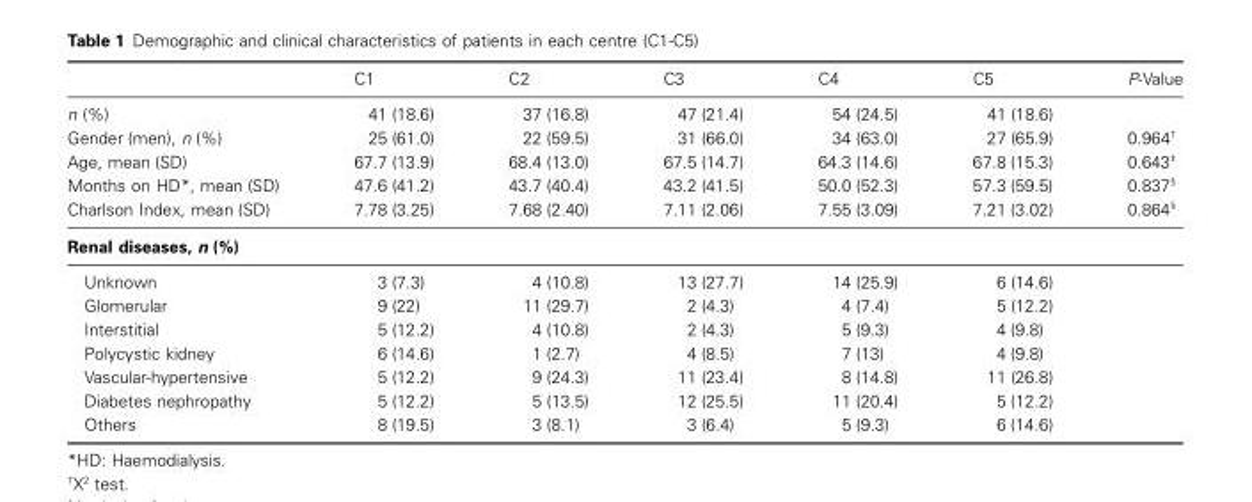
<table><thead><tr><td></td><td>C1</td><td>C2</td><td>C3</td><td>C4</td><td>C5</td><td>P-Value</td></tr></thead><tbody><tr><td>n (%)</td><td>41 (18.6)</td><td>37 (16.8)</td><td>47 (21.4)</td><td>54 (24.5)</td><td>41 (18.6)</td><td></td></tr><tr><td>Gender (men), n (%)</td><td>25 (61.0)</td><td>22 (59.5)</td><td>31 (66.0)</td><td>34 (63.0)</td><td>27 (65.9)</td><td>0.964†</td></tr><tr><td>Age, mean (SD)</td><td>67.7 (13.9)</td><td>68.4 (13.0)</td><td>67.5 (14.7)</td><td>64.3 (14.6)</td><td>67.8 (15.3)</td><td>0.643‡</td></tr><tr><td>Months on HD*, mean (SD)</td><td>47.6 (41.2)</td><td>43.7 (40.4)</td><td>43.2 (41.5)</td><td>50.0 (52.3)</td><td>57.3 (59.5)</td><td>0.837§</td></tr><tr><td>Charlson Index, mean (SD)</td><td>7.78 (3.25)</td><td>7.68 (2.40)</td><td>7.11 (2.06)</td><td>7.55 (3.09)</td><td>7.21 (3.02)</td><td>0.864§</td></tr><tr><td colspan="7">Renal diseases, n (%)</td></tr><tr><td>Unknown</td><td>3 (7.3)</td><td>4 (10.8)</td><td>13 (27.7)</td><td>14 (25.9)</td><td>6 (14.6)</td><td></td></tr><tr><td>Glomerular</td><td>9 (22)</td><td>11 (29.7)</td><td>2 (4.3)</td><td>4 (7.4)</td><td>5 (12.2)</td><td></td></tr><tr><td>Interstitial</td><td>5 (12.2)</td><td>4 (10.8)</td><td>2 (4.3)</td><td>5 (9.3)</td><td>4 (9.8)</td><td></td></tr><tr><td>Polycystic kidney</td><td>6 (14.6)</td><td>1 (2.7)</td><td>4 (8.5)</td><td>7 (13)</td><td>4 (9.8)</td><td></td></tr><tr><td>Vascular-hypertensive</td><td>5 (12.2)</td><td>9 (24.3)</td><td>11 (23.4)</td><td>8 (14.8)</td><td>11 (26.8)</td><td></td></tr><tr><td>Diabetes nephropathy</td><td>5 (12.2)</td><td>5 (13.5)</td><td>12 (25.5)</td><td>11 (20.4)</td><td>5 (12.2)</td><td></td></tr><tr><td>Others</td><td>8 (19.5)</td><td>3 (8.1)</td><td>3 (6.4)</td><td>5 (9.3)</td><td>6 (14.6)</td><td></td></tr></tbody></table>